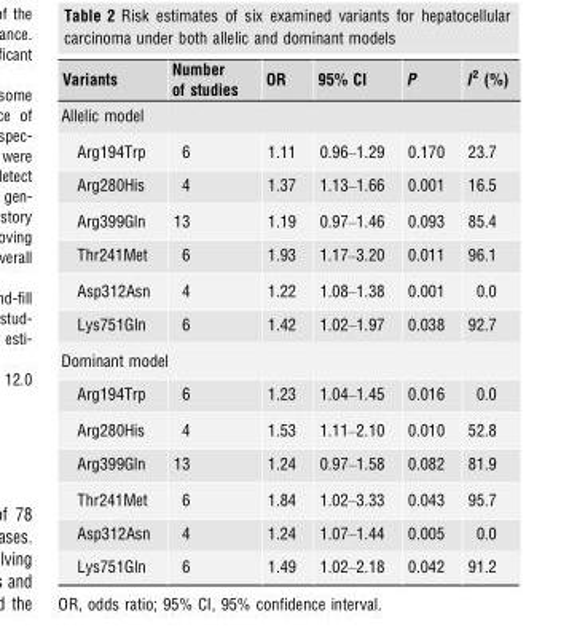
<table><thead><tr><td>Variants</td><td>Number of studies</td><td>OR</td><td>95% CI</td><td>P</td><td>I<sup>2</sup> (%)</td></tr></thead><tbody><tr><td colspan="6">Allelic model</td></tr><tr><td>Arg194Trp</td><td>6</td><td>1.11</td><td>0.96–1.29</td><td>0.170</td><td>23.7</td></tr><tr><td>Arg280His</td><td>4</td><td>1.37</td><td>1.13–1.66</td><td>0.001</td><td>16.5</td></tr><tr><td>Arg399Gln</td><td>13</td><td>1.19</td><td>0.97–1.46</td><td>0.093</td><td>85.4</td></tr><tr><td>Thr241Met</td><td>6</td><td>1.93</td><td>1.17–3.20</td><td>0.011</td><td>96.1</td></tr><tr><td>Asp312Asn</td><td>4</td><td>1.22</td><td>1.08–1.38</td><td>0.001</td><td>0.0</td></tr><tr><td>Lys751Gln</td><td>6</td><td>1.42</td><td>1.02–1.97</td><td>0.038</td><td>92.7</td></tr><tr><td colspan="6">Dominant model</td></tr><tr><td>Arg194Trp</td><td>6</td><td>1.23</td><td>1.04–1.45</td><td>0.016</td><td>0.0</td></tr><tr><td>Arg280His</td><td>4</td><td>1.53</td><td>1.11–2.10</td><td>0.010</td><td>52.8</td></tr><tr><td>Arg399Gln</td><td>13</td><td>1.24</td><td>0.97–1.58</td><td>0.082</td><td>81.9</td></tr><tr><td>Thr241Met</td><td>6</td><td>1.84</td><td>1.02–3.33</td><td>0.043</td><td>95.7</td></tr><tr><td>Asp312Asn</td><td>4</td><td>1.24</td><td>1.07–1.44</td><td>0.005</td><td>0.0</td></tr><tr><td>Lys751Gln</td><td>6</td><td>1.49</td><td>1.02–2.18</td><td>0.042</td><td>91.2</td></tr></tbody></table>